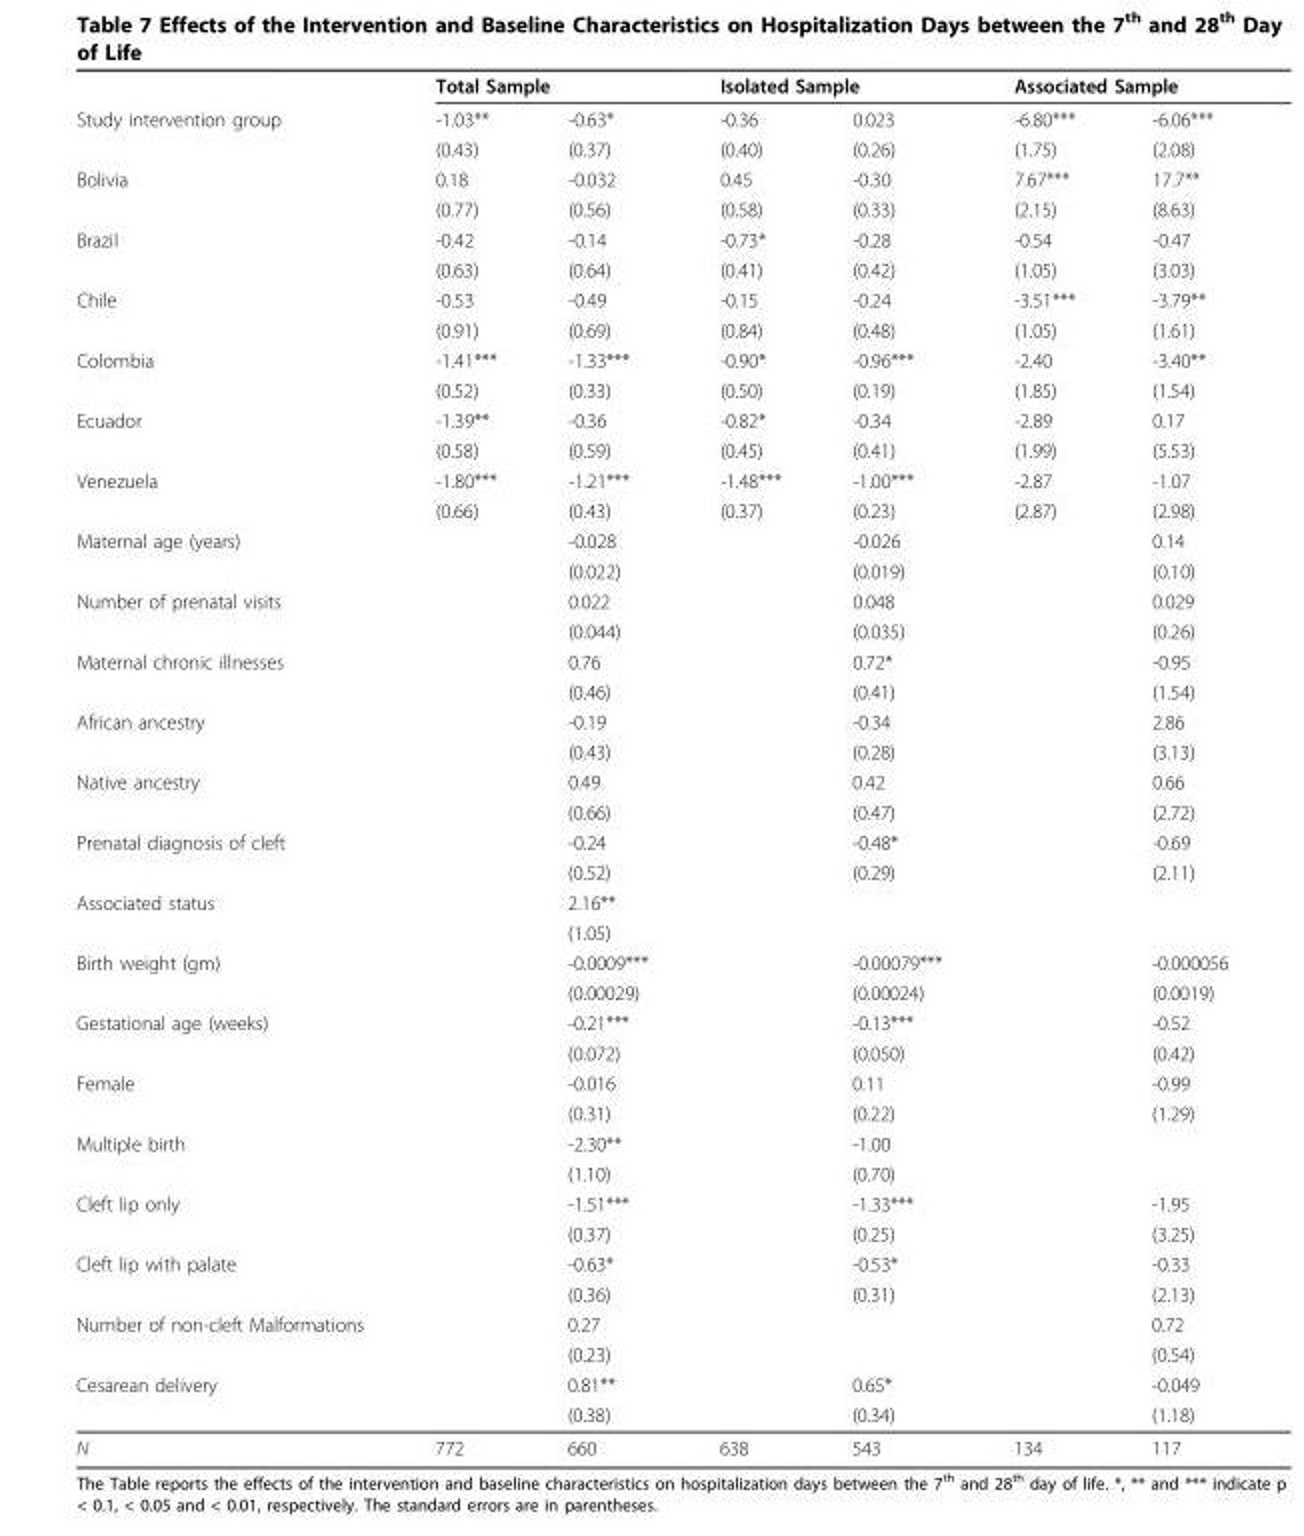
<table><thead><tr><td rowspan="45">Study intervention group Bolivia Brazil Chile Colombia Ecuador Venezuela Maternal age (years) Number of prenatal visits Maternal chronic illnesses African ancestry Native ancestry Prenatal diagnosis of cleft Associated status Birth weight (gm) Gestational age (weeks) Female Multiple birth Cleft lip only Cleft lip with palate Number of non-cleft Malformations Cesarean delivery</td><td colspan="2">Total Sample</td><td colspan="2">Isolated Sample</td><td colspan="2">Associated Sample</td></tr><tr><td rowspan="44">-1.03** (0.43) 0.18 (0.77) -0.42 (0.63) -0.53 (0.91) -1.41*** (0.52) -1.39** (0.58) -1.80*** (0.66)</td><td rowspan="44">-0.63* (0.37) -0.032 (0.56) -0.14 (0.64) -0.49 (0.69) -1.33*** (0.33) -0.36 (0.59) -1.21*** (0.43) -0.028 (0.022) 0.022 (0.044) 0.76 (0.46) -0.19 (0.43) 0.49 (0.66) -0.24 (0.52) 2.16** (1.05) -0.0009*** (0.00029) -0.21*** (0.072) -0.016 (0.31) -2.30** (1.10) -1.51*** (0.37) -0.63* (0.36) 0.27 (0.23) 0.81** (0.38)</td><td rowspan="44">-0.36 (0.40) 0.45 (0.58) -0.73* (0.41) -0.15 (0.84) -0.90* (0.50) -0.82* (0.45) -1.48*** (0.37)</td><td rowspan="44">0.023 (0.26) -0.30 (0.33) -0.28 (0.42) -0.24 (0.48) -0.96*** (0.19) -0.34 (0.41) -1.00*** (0.23) -0.026 (0.019) 0.048 (0.035) 0.72* (0.41) -0.34 (0.28) 0.42 (0.47) -0.48* (0.29) -0.00079*** (0.00024) -0.13*** (0.050) 0.11 (0.22) -1.00 (0.70) -1.33*** (0.25) -0.53* (0.31) 0.65* (0.34)</td><td rowspan="44">-6.80*** (1.75) 7.67*** (2.15) -0.54 (1.05) -3.51*** (1.05) -2.40 (1.85) -2.89 (1.99) -2.87 (2.87)</td><td rowspan="44">-6.06*** (2.08) 17.7** (8.63) -0.47 (3.03) -3.79** (1.61) -3.40** (1.54) 0.17 (5.53) -1.07 (2.98) 0.14 (0.10) 0.029 (0.26) -0.95 (1.54) 2.86 (3.13) 0.66 (2.72) -0.69 (2.11) -0.000056 (0.0019) -0.52 (0.42) -0.99 (1.29) -1.95 (3.25) -0.33 (2.13) 0.72 (0.54) -0.049 (1.18)</td></tr><tr></tr><tr></tr><tr></tr><tr></tr><tr></tr><tr></tr><tr></tr><tr></tr><tr></tr><tr></tr><tr></tr><tr></tr><tr></tr><tr></tr><tr></tr><tr></tr><tr></tr><tr></tr><tr></tr><tr></tr><tr></tr><tr></tr><tr></tr><tr></tr><tr></tr><tr></tr><tr></tr><tr></tr><tr></tr><tr></tr><tr></tr><tr></tr><tr></tr><tr></tr><tr></tr><tr></tr><tr></tr><tr></tr><tr></tr><tr></tr><tr></tr><tr></tr><tr></tr></thead><tbody><tr><td>N</td><td>772</td><td>660</td><td>638</td><td>543</td><td>134</td><td>117</td></tr></tbody></table>